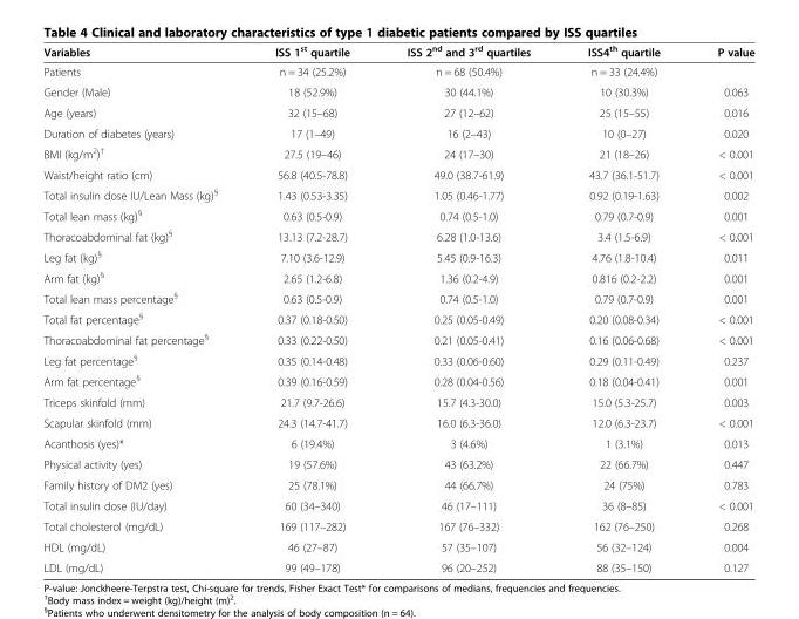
<table><thead><tr><td>Variables</td><td>ISS 1<sup>st</sup> quartile</td><td>ISS 2<sup>nd</sup> and 3<sup>rd</sup> quartiles</td><td>ISS4<sup>th</sup> quartile</td><td>P value</td></tr></thead><tbody><tr><td>Patients</td><td>n = 34 (25.2%)</td><td>n = 68 (50.4%)</td><td>n = 33 (24.4%)</td><td></td></tr><tr><td>Gender (Male)</td><td>18 (52.9%)</td><td>30 (44.1%)</td><td>10 (30.3%)</td><td>0.063</td></tr><tr><td>Age (years)</td><td>32 (15–68)</td><td>27 (12–62)</td><td>25 (15–55)</td><td>0.016</td></tr><tr><td>Duration of diabetes (years)</td><td>17 (1–49)</td><td>16 (2–43)</td><td>10 (0–27)</td><td>0.020</td></tr><tr><td>BMI (kg/m<sup>2</sup>)<sup>†</sup></td><td>27.5 (19–46)</td><td>24 (17–30)</td><td>21 (18–26)</td><td>&lt; 0.001</td></tr><tr><td>Waist/height ratio (cm)</td><td>56.8 (40.5-78.8)</td><td>49.0 (38.7-61.9)</td><td>43.7 (36.1-51.7)</td><td>&lt; 0.001</td></tr><tr><td>Total insulin dose IU/Lean Mass (kg)<sup>§</sup></td><td>1.43 (0.53-3.35)</td><td>1.05 (0.46-1.77)</td><td>0.92 (0.19-1.63)</td><td>0.002</td></tr><tr><td>Total lean mass (kg)<sup>§</sup></td><td>0.63 (0.5-0.9)</td><td>0.74 (0.5-1.0)</td><td>0.79 (0.7-0.9)</td><td>0.001</td></tr><tr><td>Thoracoabdominal fat (kg)<sup>§</sup></td><td>13.13 (7.2-28.7)</td><td>6.28 (1.0-13.6)</td><td>3.4 (1.5-6.9)</td><td>&lt; 0.001</td></tr><tr><td>Leg fat (kg)<sup>§</sup></td><td>7.10 (3.6-12.9)</td><td>5.45 (0.9-16.3)</td><td>4.76 (1.8-10.4)</td><td>0.011</td></tr><tr><td>Arm fat (kg)<sup>§</sup></td><td>2.65 (1.2-6.8)</td><td>1.36 (0.2-4.9)</td><td>0.816 (0.2-2.2)</td><td>0.001</td></tr><tr><td>Total lean mass percentage<sup>§</sup></td><td>0.63 (0.5-0.9)</td><td>0.74 (0.5-1.0)</td><td>0.79 (0.7-0.9)</td><td>0.001</td></tr><tr><td>Total fat percentage<sup>§</sup></td><td>0.37 (0.18-0.50)</td><td>0.25 (0.05-0.49)</td><td>0.20 (0.08-0.34)</td><td>&lt; 0.001</td></tr><tr><td>Thoracoabdominal fat percentage<sup>§</sup></td><td>0.33 (0.22-0.50)</td><td>0.21 (0.05-0.41)</td><td>0.16 (0.06-0.68)</td><td>&lt; 0.001</td></tr><tr><td>Leg fat percentage<sup>§</sup></td><td>0.35 (0.14-0.48)</td><td>0.33 (0.06-0.60)</td><td>0.29 (0.11-0.49)</td><td>0.237</td></tr><tr><td>Arm fat percentage<sup>§</sup></td><td>0.39 (0.16-0.59)</td><td>0.28 (0.04-0.56)</td><td>0.18 (0.04-0.41)</td><td>0.001</td></tr><tr><td>Triceps skinfold (mm)</td><td>21.7 (9.7-26.6)</td><td>15.7 (4.3-30.0)</td><td>15.0 (5.3-25.7)</td><td>0.003</td></tr><tr><td>Scapular skinfold (mm)</td><td>24.3 (14.7-41.7)</td><td>16.0 (6.3-36.0)</td><td>12.0 (6.3-23.7)</td><td>&lt; 0.001</td></tr><tr><td>Acanthosis (yes)*</td><td>6 (19.4%)</td><td>3 (4.6%)</td><td>1 (3.1%)</td><td>0.013</td></tr><tr><td>Physical activity (yes)</td><td>19 (57.6%)</td><td>43 (63.2%)</td><td>22 (66.7%)</td><td>0.447</td></tr><tr><td>Family history of DM2 (yes)</td><td>25 (78.1%)</td><td>44 (66.7%)</td><td>24 (75%)</td><td>0.783</td></tr><tr><td>Total insulin dose (IU/day)</td><td>60 (34–340)</td><td>46 (17–111)</td><td>36 (8–85)</td><td>&lt; 0.001</td></tr><tr><td>Total cholesterol (mg/dL)</td><td>169 (117–282)</td><td>167 (76–332)</td><td>162 (76–250)</td><td>0.268</td></tr><tr><td>HDL (mg/dL)</td><td>46 (27–87)</td><td>57 (35–107)</td><td>56 (32–124)</td><td>0.004</td></tr><tr><td>LDL (mg/dL)</td><td>99 (49–178)</td><td>96 (20–252)</td><td>88 (35–150)</td><td>0.127</td></tr></tbody></table>